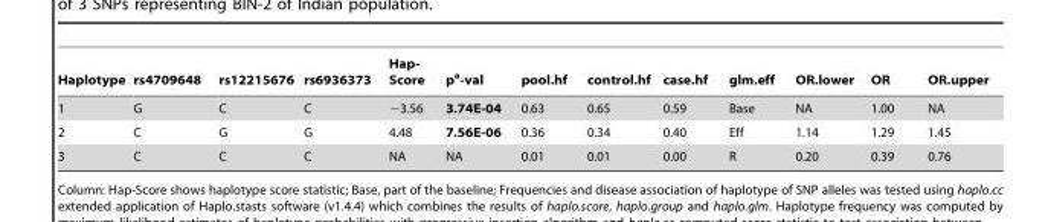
<table><thead><tr><td>Haplotype</td><td>rs4709648</td><td>rs12215676</td><td>rs6936373</td><td>Hap- Score</td><td>p<sup>a</sup>-val</td><td>pool.hf</td><td>control.hf</td><td>case.hf</td><td>glm.eff</td><td>OR.lower</td><td>OR</td><td>OR.upper</td></tr></thead><tbody><tr><td>1</td><td>G</td><td>C</td><td>C</td><td>−3.56</td><td>3.74E-04</td><td>0.63</td><td>0.65</td><td>0.59</td><td>Base</td><td>NA</td><td>1.00</td><td>NA</td></tr><tr><td>2</td><td>C</td><td>G</td><td>G</td><td>4.48</td><td>7.56E-06</td><td>0.36</td><td>0.34</td><td>0.40</td><td>Eff</td><td>1.14</td><td>1.29</td><td>1.45</td></tr><tr><td>3</td><td>C</td><td>C</td><td>C</td><td>NA</td><td>NA</td><td>0.01</td><td>0.01</td><td>0.00</td><td>R</td><td>0.20</td><td>0.39</td><td>0.76</td></tr></tbody></table>